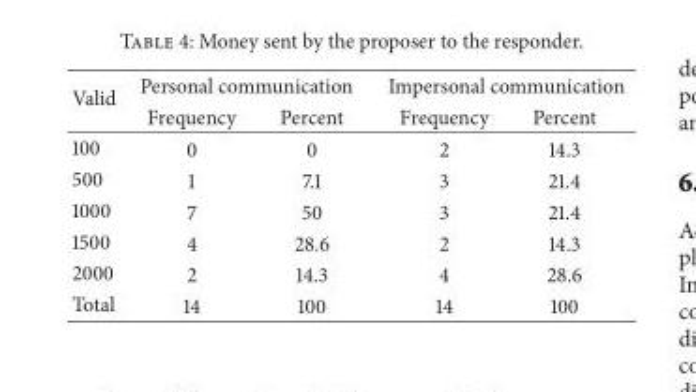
<table><thead><tr><td rowspan="2">Valid</td><td colspan="2">Personal communication</td><td colspan="2">Impersonal communication</td></tr><tr><td>Frequency</td><td>Percent</td><td>Frequency</td><td>Percent</td></tr></thead><tbody><tr><td>100</td><td>0</td><td>0</td><td>2</td><td>14.3</td></tr><tr><td>500</td><td>1</td><td>7.1</td><td>3</td><td>21.4</td></tr><tr><td>1000</td><td>7</td><td>50</td><td>3</td><td>21.4</td></tr><tr><td>1500</td><td>4</td><td>28.6</td><td>2</td><td>14.3</td></tr><tr><td>2000</td><td>2</td><td>14.3</td><td>4</td><td>28.6</td></tr><tr><td>Total</td><td>14</td><td>100</td><td>14</td><td>100</td></tr></tbody></table>